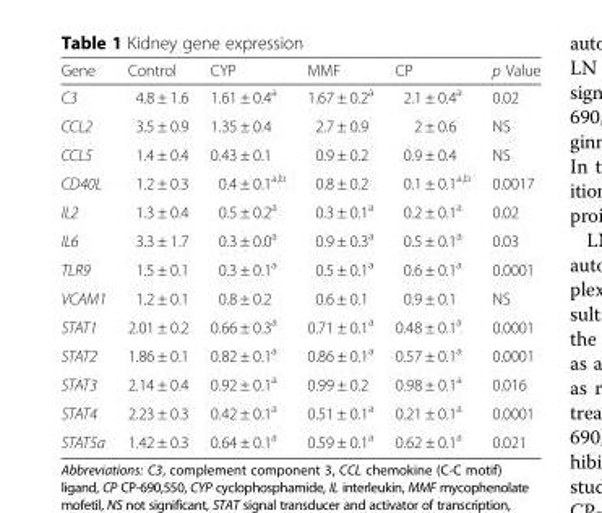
<table><thead><tr><td>Gene</td><td>Control</td><td>CYP</td><td>MMF</td><td>CP</td><td>p Value</td></tr></thead><tbody><tr><td>C3</td><td>4.8 ± 1.6</td><td>1.61 ± 0.4<sup>a</sup></td><td>1.67 ± 0.2<sup>a</sup></td><td>2.1 ± 0.4<sup>a</sup></td><td>0.02</td></tr><tr><td>CCL2</td><td>3.5 ± 0.9</td><td>1.35 ± 0.4</td><td>2.7 ± 0.9</td><td>2 ± 0.6</td><td>NS</td></tr><tr><td>CCL5</td><td>1.4 ± 0.4</td><td>0.43 ± 0.1</td><td>0.9 ± 0.2</td><td>0.9 ± 0.4</td><td>NS</td></tr><tr><td>CD40L</td><td>1.2 ± 0.3</td><td>0.4 ± 0.1<sup>a,b</sup></td><td>0.8 ± 0.2</td><td>0.1 ± 0.1<sup>a,b</sup></td><td>0.0017</td></tr><tr><td>IL2</td><td>1.3 ± 0.4</td><td>0.5 ± 0.2<sup>a</sup></td><td>0.3 ± 0.1<sup>a</sup></td><td>0.2 ± 0.1<sup>a</sup></td><td>0.02</td></tr><tr><td>IL6</td><td>3.3 ± 1.7</td><td>0.3 ± 0.0<sup>a</sup></td><td>0.9 ± 0.3<sup>a</sup></td><td>0.5 ± 0.1<sup>a</sup></td><td>0.03</td></tr><tr><td>TLR9</td><td>1.5 ± 0.1</td><td>0.3 ± 0.1<sup>a</sup></td><td>0.5 ± 0.1<sup>a</sup></td><td>0.6 ± 0.1<sup>a</sup></td><td>0.0001</td></tr><tr><td>VCAM1</td><td>1.2 ± 0.1</td><td>0.8 ± 0.2</td><td>0.6 ± 0.1</td><td>0.9 ± 0.1</td><td>NS</td></tr><tr><td>STAT1</td><td>2.01 ± 0.2</td><td>0.66 ± 0.3<sup>a</sup></td><td>0.71 ± 0.1<sup>a</sup></td><td>0.48 ± 0.1<sup>a</sup></td><td>0.0001</td></tr><tr><td>STAT2</td><td>1.86 ± 0.1</td><td>0.82 ± 0.1<sup>a</sup></td><td>0.86 ± 0.1<sup>a</sup></td><td>0.57 ± 0.1<sup>a</sup></td><td>0.0001</td></tr><tr><td>STAT3</td><td>2.14 ± 0.4</td><td>0.92 ± 0.1<sup>a</sup></td><td>0.99 ± 0.2</td><td>0.98 ± 0.1<sup>a</sup></td><td>0.016</td></tr><tr><td>STAT4</td><td>2.23 ± 0.3</td><td>0.42 ± 0.1<sup>a</sup></td><td>0.51 ± 0.1<sup>a</sup></td><td>0.21 ± 0.1<sup>a</sup></td><td>0.0001</td></tr><tr><td>STAT5a</td><td>1.42 ± 0.3</td><td>0.64 ± 0.1<sup>a</sup></td><td>0.59 ± 0.1<sup>a</sup></td><td>0.62 ± 0.1<sup>a</sup></td><td>0.021</td></tr></tbody></table>